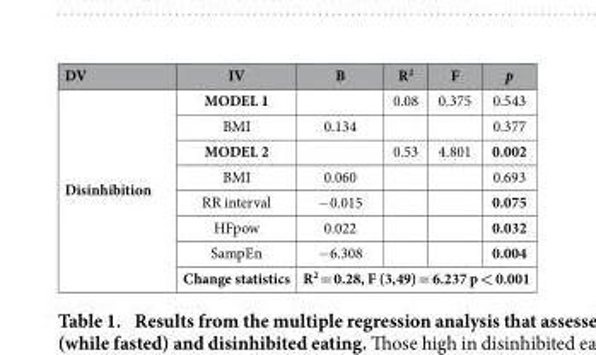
<table><thead><tr><td>DV</td><td>IV</td><td>B</td><td>R<sup>2</sup></td><td>F</td><td>p</td></tr></thead><tbody><tr><td rowspan="8">Disinhibition</td><td>MODEL 1</td><td></td><td>0.08</td><td>0.375</td><td>0.543</td></tr><tr><td>BMI</td><td>0.134</td><td></td><td></td><td>0.377</td></tr><tr><td>MODEL 2</td><td></td><td>0.53</td><td>4.801</td><td>0.002</td></tr><tr><td>BMI</td><td>0.060</td><td></td><td></td><td>0.693</td></tr><tr><td>RR interval</td><td>− 0.015</td><td></td><td></td><td>0.075</td></tr><tr><td>HFpow</td><td>0.022</td><td></td><td></td><td>0.032</td></tr><tr><td>SampEn</td><td>− 6.308</td><td></td><td></td><td>0.004</td></tr><tr><td>Change statistics</td><td colspan="4">R<sup>2</sup> = 0.28, F (3,49) = 6.237 p &lt; 0.001</td></tr></tbody></table>